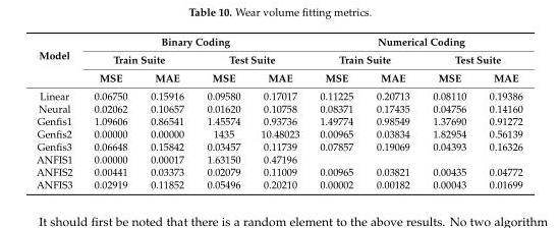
<table><thead><tr><td rowspan="3">Model</td><td colspan="4">Binary Coding</td><td colspan="4">Numerical Coding</td></tr><tr><td colspan="2">Train Suite</td><td colspan="2">Test Suite</td><td colspan="2">Train Suite</td><td colspan="2">Test Suite</td></tr><tr><td>MSE</td><td>MAE</td><td>MSE</td><td>MAE</td><td>MSE</td><td>MAE</td><td>MSE</td><td>MAE</td></tr></thead><tbody><tr><td>Linear</td><td>0.06750</td><td>0.15916</td><td>0.09580</td><td>0.17017</td><td>0.11225</td><td>0.20713</td><td>0.08110</td><td>0.19386</td></tr><tr><td>Neural</td><td>0.02062</td><td>0.10657</td><td>0.01620</td><td>0.10758</td><td>0.08371</td><td>0.17435</td><td>0.04756</td><td>0.14160</td></tr><tr><td>Genfis1</td><td>1.09606</td><td>0.86541</td><td>1.45574</td><td>0.93736</td><td>1.49774</td><td>0.98549</td><td>1.37690</td><td>0.91272</td></tr><tr><td>Genfis2</td><td>0.00000</td><td>0.00000</td><td>1435</td><td>10.48023</td><td>0.00965</td><td>0.03834</td><td>1.82954</td><td>0.56139</td></tr><tr><td>Genfis3</td><td>0.06648</td><td>0.15842</td><td>0.03457</td><td>0.11739</td><td>0.07857</td><td>0.19069</td><td>0.04393</td><td>0.16326</td></tr><tr><td>ANFIS1</td><td>0.00000</td><td>0.00017</td><td>1.63150</td><td>0.47196</td><td></td><td></td><td></td><td></td></tr><tr><td>ANFIS2</td><td>0.00441</td><td>0.03373</td><td>0.02079</td><td>0.11009</td><td>0.00965</td><td>0.03821</td><td>0.00435</td><td>0.04772</td></tr><tr><td>ANFIS3</td><td>0.02919</td><td>0.11852</td><td>0.05496</td><td>0.20210</td><td>0.00002</td><td>0.00182</td><td>0.00043</td><td>0.01699</td></tr></tbody></table>